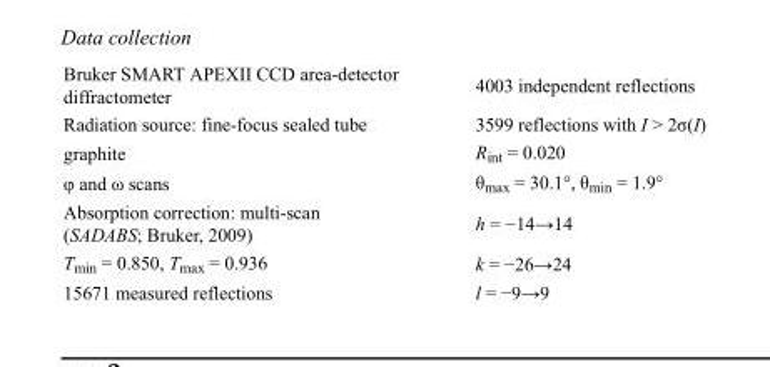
<table><tbody><tr><td>Bruker SMART APEXII CCD area-detector diffractometer</td><td>4003 independent reflections</td></tr><tr><td>Radiation source: fine-focus sealed tube</td><td>3599 reflections with I &gt; 2σ(I)</td></tr><tr><td>graphite</td><td>R<sub>int</sub> = 0.020</td></tr><tr><td>φ and ω scans</td><td>θ<sub>max</sub> = 30.1°, θ<sub>min</sub> = 1.9°</td></tr><tr><td>Absorption correction: multi-scan (SADABS; Bruker, 2009)</td><td>h = −14→14</td></tr><tr><td>T<sub>min</sub> = 0.850, T<sub>max</sub> = 0.936</td><td>k = −26→24</td></tr><tr><td>15671 measured reflections</td><td>l = −9→9</td></tr></tbody></table>